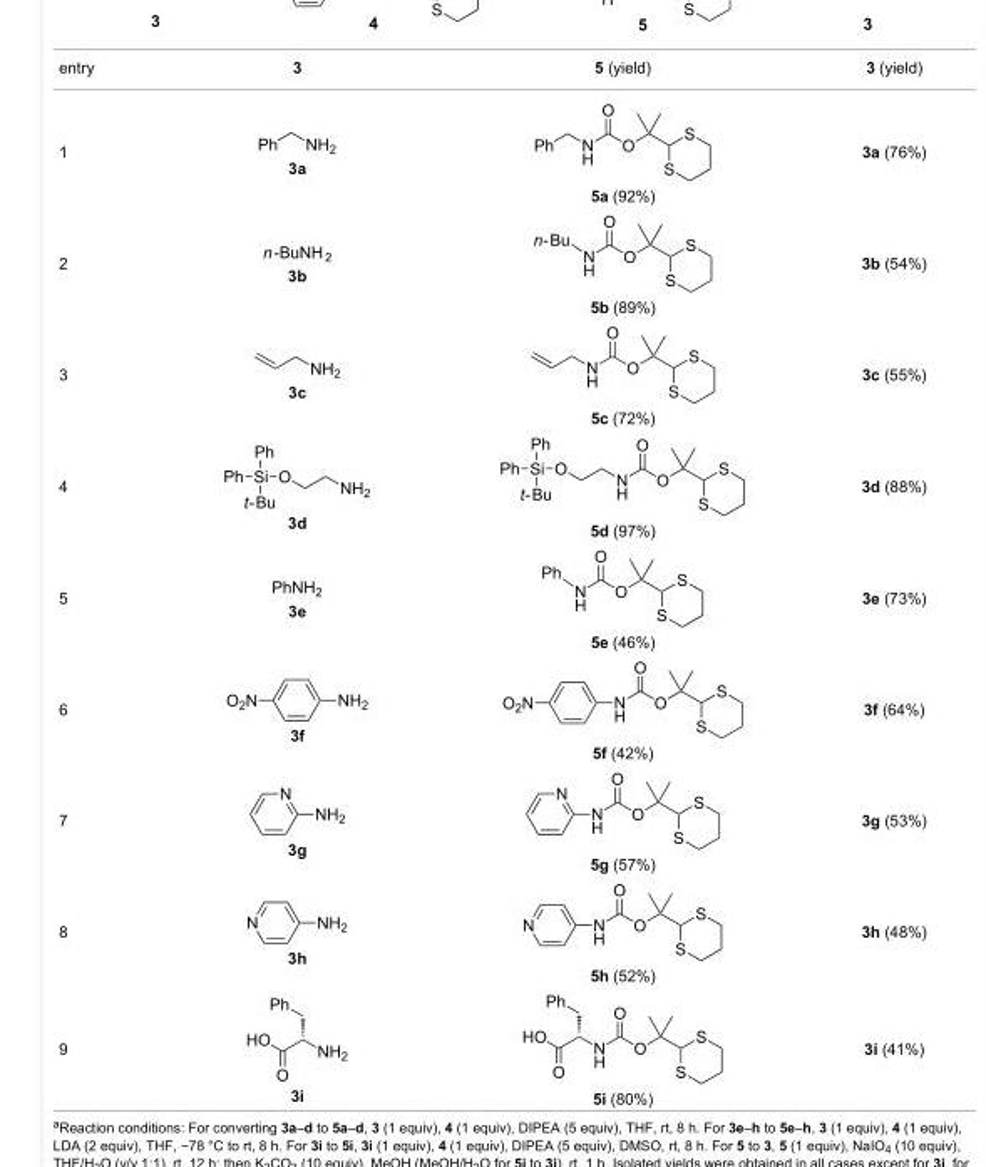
<table><tbody><tr><td>entry</td><td>3</td><td>5 (yield)</td><td>3 (yield)</td></tr><tr><td>1</td><td>3a</td><td>5a (92%)</td><td>3a (76%)</td></tr><tr><td>2</td><td>3b</td><td>5b (89%)</td><td>3b (54%)</td></tr><tr><td>3</td><td>3c</td><td>5c (72%)</td><td>3c (55%)</td></tr><tr><td>4</td><td>3d</td><td>5d (97%)</td><td>3d (88%)</td></tr><tr><td>5</td><td>3e</td><td>5e (46%)</td><td>3e (73%)</td></tr><tr><td>6</td><td>3f</td><td>5f (42%)</td><td>3f (64%)</td></tr><tr><td>7</td><td>3g</td><td>5g (57%)</td><td>3g (53%)</td></tr><tr><td>8</td><td>3h</td><td>5h (52%)</td><td>3h (48%)</td></tr><tr><td>9</td><td>3i</td><td>5i (80%)</td><td>3i (41%)</td></tr></tbody></table>